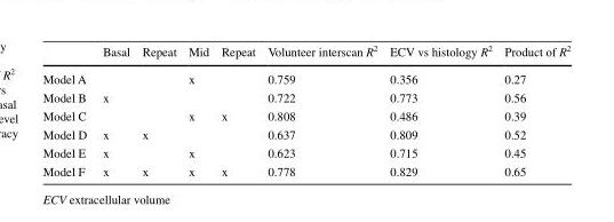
<table><thead><tr><td></td><td>Basal</td><td>Repeat</td><td>Mid</td><td>Repeat</td><td>Volunteer interscan R<sup>2</sup></td><td>ECV vs histology R<sup>2</sup></td><td>Product of R<sup>2</sup></td></tr></thead><tbody><tr><td>Model A</td><td></td><td></td><td>x</td><td></td><td>0.759</td><td>0.356</td><td>0.27</td></tr><tr><td>Model B</td><td>x</td><td></td><td></td><td></td><td>0.722</td><td>0.773</td><td>0.56</td></tr><tr><td>Model C</td><td></td><td></td><td>x</td><td>x</td><td>0.808</td><td>0.486</td><td>0.39</td></tr><tr><td>Model D</td><td>x</td><td>x</td><td></td><td></td><td>0.637</td><td>0.809</td><td>0.52</td></tr><tr><td>Model E</td><td>x</td><td></td><td>x</td><td></td><td>0.623</td><td>0.715</td><td>0.45</td></tr><tr><td>Model F</td><td>x</td><td>x</td><td>x</td><td>x</td><td>0.778</td><td>0.829</td><td>0.65</td></tr></tbody></table>